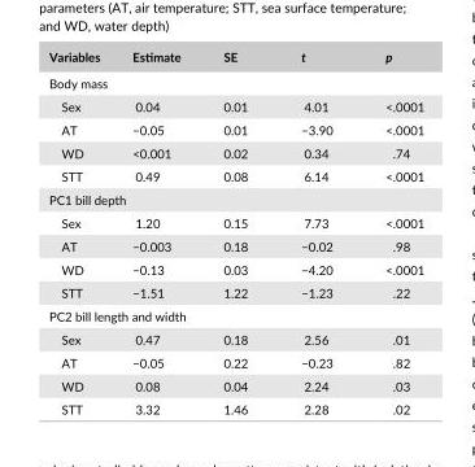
<table><thead><tr><td>Variables</td><td>Estimate</td><td>SE</td><td>t</td><td>p</td></tr></thead><tbody><tr><td colspan="5">Body mass</td></tr><tr><td>Sex</td><td>0.04</td><td>0.01</td><td>4.01</td><td>&lt;.0001</td></tr><tr><td>AT</td><td>−0.05</td><td>0.01</td><td>−3.90</td><td>&lt;.0001</td></tr><tr><td>WD</td><td>&lt;0.001</td><td>0.02</td><td>0.34</td><td>.74</td></tr><tr><td>STT</td><td>0.49</td><td>0.08</td><td>6.14</td><td>&lt;.0001</td></tr><tr><td colspan="5">PC1 bill depth</td></tr><tr><td>Sex</td><td>1.20</td><td>0.15</td><td>7.73</td><td>&lt;.0001</td></tr><tr><td>AT</td><td>−0.003</td><td>0.18</td><td>−0.02</td><td>.98</td></tr><tr><td>WD</td><td>−0.13</td><td>0.03</td><td>−4.20</td><td>&lt;.0001</td></tr><tr><td>STT</td><td>−1.51</td><td>1.22</td><td>−1.23</td><td>.22</td></tr><tr><td colspan="5">PC2 bill length and width</td></tr><tr><td>Sex</td><td>0.47</td><td>0.18</td><td>2.56</td><td>.01</td></tr><tr><td>AT</td><td>−0.05</td><td>0.22</td><td>−0.23</td><td>.82</td></tr><tr><td>WD</td><td>0.08</td><td>0.04</td><td>2.24</td><td>.03</td></tr><tr><td>STT</td><td>3.32</td><td>1.46</td><td>2.28</td><td>.02</td></tr></tbody></table>